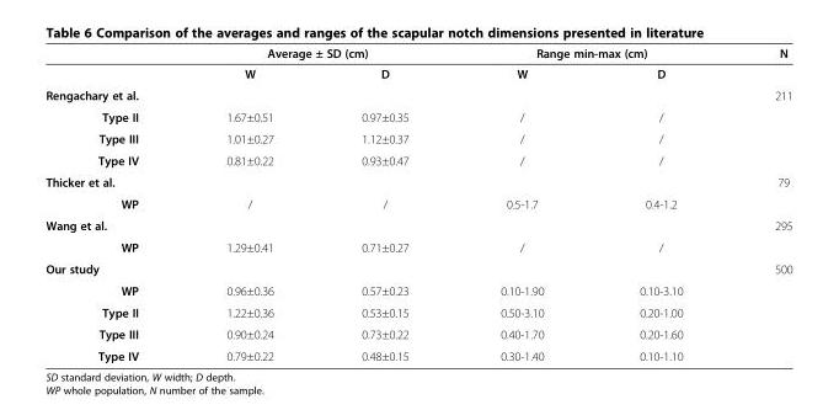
<table><thead><tr><td rowspan="2"></td><td colspan="2">Average ± SD (cm)</td><td colspan="2">Range min-max (cm)</td><td rowspan="2">N</td></tr><tr><td>W</td><td>D</td><td>W</td><td>D</td></tr></thead><tbody><tr><td>Rengachary et al.</td><td></td><td></td><td></td><td></td><td>211</td></tr><tr><td>Type II</td><td>1.67±0.51</td><td>0.97±0.35</td><td>/</td><td>/</td><td></td></tr><tr><td>Type III</td><td>1.01±0.27</td><td>1.12±0.37</td><td>/</td><td>/</td><td></td></tr><tr><td>Type IV</td><td>0.81±0.22</td><td>0.93±0.47</td><td>/</td><td>/</td><td></td></tr><tr><td>Thicker et al.</td><td></td><td></td><td></td><td></td><td>79</td></tr><tr><td>WP</td><td>/</td><td>/</td><td>0.5-1.7</td><td>0.4-1.2</td><td></td></tr><tr><td>Wang et al.</td><td></td><td></td><td></td><td></td><td>295</td></tr><tr><td>WP</td><td>1.29±0.41</td><td>0.71±0.27</td><td>/</td><td>/</td><td></td></tr><tr><td>Our study</td><td></td><td></td><td></td><td></td><td>500</td></tr><tr><td>WP</td><td>0.96±0.36</td><td>0.57±0.23</td><td>0.10-1.90</td><td>0.10-3.10</td><td></td></tr><tr><td>Type II</td><td>1.22±0.36</td><td>0.53±0.15</td><td>0.50-3.10</td><td>0.20-1.00</td><td></td></tr><tr><td>Type III</td><td>0.90±0.24</td><td>0.73±0.22</td><td>0.40-1.70</td><td>0.20-1.60</td><td></td></tr><tr><td>Type IV</td><td>0.79±0.22</td><td>0.48±0.15</td><td>0.30-1.40</td><td>0.10-1.10</td><td></td></tr></tbody></table>